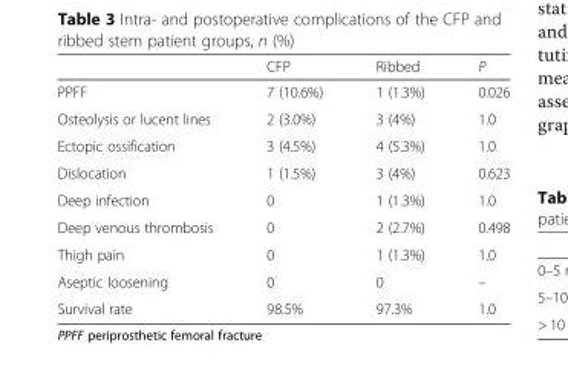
<table><thead><tr><td></td><td>CFP</td><td>Ribbed</td><td>P</td></tr></thead><tbody><tr><td>PPFF</td><td>7 (10.6%)</td><td>1 (1.3%)</td><td>0.026</td></tr><tr><td>Osteolysis or lucent lines</td><td>2 (3.0%)</td><td>3 (4%)</td><td>1.0</td></tr><tr><td>Ectopic ossification</td><td>3 (4.5%)</td><td>4 (5.3%)</td><td>1.0</td></tr><tr><td>Dislocation</td><td>1 (1.5%)</td><td>3 (4%)</td><td>0.623</td></tr><tr><td>Deep infection</td><td>0</td><td>1 (1.3%)</td><td>1.0</td></tr><tr><td>Deep venous thrombosis</td><td>0</td><td>2 (2.7%)</td><td>0.498</td></tr><tr><td>Thigh pain</td><td>0</td><td>1 (1.3%)</td><td>1.0</td></tr><tr><td>Aseptic loosening</td><td>0</td><td>0</td><td>–</td></tr><tr><td>Survival rate</td><td>98.5%</td><td>97.3%</td><td>1.0</td></tr></tbody></table>